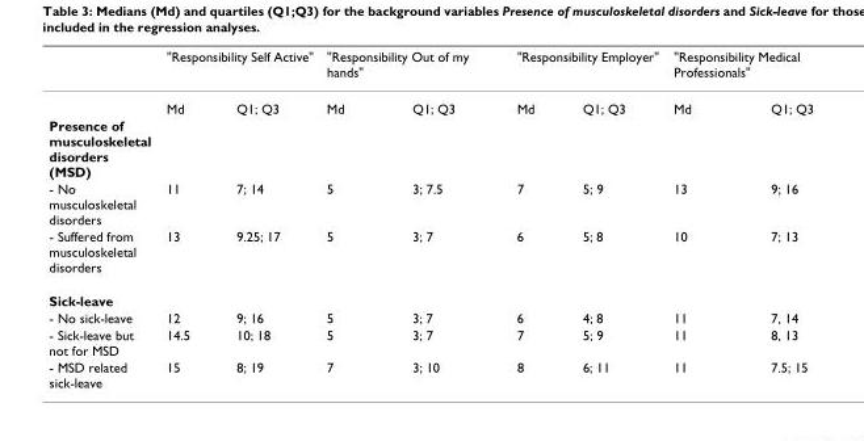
<table><thead><tr><td rowspan="2"></td><td colspan="2">&quot;Responsibility Self Active&quot;</td><td colspan="2">&quot;Responsibility Out of my hands&quot;</td><td colspan="2">&quot;Responsibility Employer&quot;</td><td colspan="2">&quot;Responsibility Medical Professionals&quot;</td></tr><tr><td>Md</td><td>Q1; Q3</td><td>Md</td><td>Q1; Q3</td><td>Md</td><td>Q1; Q3</td><td>Md</td><td>Q1; Q3</td></tr></thead><tbody><tr><td colspan="9">Presence of musculoskeletal disorders (MSD)</td></tr><tr><td>- No musculoskeletal disorders</td><td>11</td><td>7; 14</td><td>5</td><td>3; 7.5</td><td>7</td><td>5; 9</td><td>13</td><td>9; 16</td></tr><tr><td>- Suffered from musculoskeletal disorders</td><td>13</td><td>9.25; 17</td><td>5</td><td>3; 7</td><td>6</td><td>5; 8</td><td>10</td><td>7; 13</td></tr><tr><td colspan="9">Sick-leave</td></tr><tr><td>- No sick-leave</td><td>12</td><td>9; 16</td><td>5</td><td>3; 7</td><td>6</td><td>4; 8</td><td>11</td><td>7, 14</td></tr><tr><td>- Sick-leave but not for MSD</td><td>14.5</td><td>10; 18</td><td>5</td><td>3; 7</td><td>7</td><td>5; 9</td><td>11</td><td>8, 13</td></tr><tr><td>- MSD related sick-leave</td><td>15</td><td>8; 19</td><td>7</td><td>3; 10</td><td>8</td><td>6; 11</td><td>11</td><td>7.5; 15</td></tr></tbody></table>